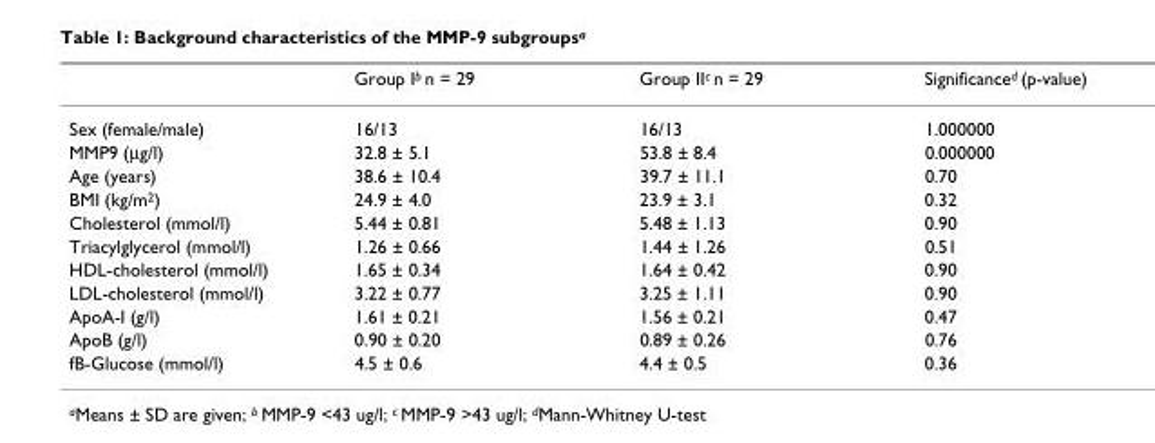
<table><thead><tr><td></td><td>Group I<sup>b</sup> n = 29</td><td>Group II<sup>c</sup> n = 29</td><td>Significance<sup>d</sup> (p-value)</td></tr></thead><tbody><tr><td>Sex (female/male)</td><td>16/13</td><td>16/13</td><td>1.000000</td></tr><tr><td>MMP9 (µg/l)</td><td>32.8 ± 5.1</td><td>53.8 ± 8.4</td><td>0.000000</td></tr><tr><td>Age (years)</td><td>38.6 ± 10.4</td><td>39.7 ± 11.1</td><td>0.70</td></tr><tr><td>BMI (kg/m<sup>2</sup>)</td><td>24.9 ± 4.0</td><td>23.9 ± 3.1</td><td>0.32</td></tr><tr><td>Cholesterol (mmol/l)</td><td>5.44 ± 0.81</td><td>5.48 ± 1.13</td><td>0.90</td></tr><tr><td>Triacylglycerol (mmol/l)</td><td>1.26 ± 0.66</td><td>1.44 ± 1.26</td><td>0.51</td></tr><tr><td>HDL-cholesterol (mmol/l)</td><td>1.65 ± 0.34</td><td>1.64 ± 0.42</td><td>0.90</td></tr><tr><td>LDL-cholesterol (mmol/l)</td><td>3.22 ± 0.77</td><td>3.25 ± 1.11</td><td>0.90</td></tr><tr><td>ApoA-I (g/l)</td><td>1.61 ± 0.21</td><td>1.56 ± 0.21</td><td>0.47</td></tr><tr><td>ApoB (g/l)</td><td>0.90 ± 0.20</td><td>0.89 ± 0.26</td><td>0.76</td></tr><tr><td>fB-Glucose (mmol/l)</td><td>4.5 ± 0.6</td><td>4.4 ± 0.5</td><td>0.36</td></tr></tbody></table>